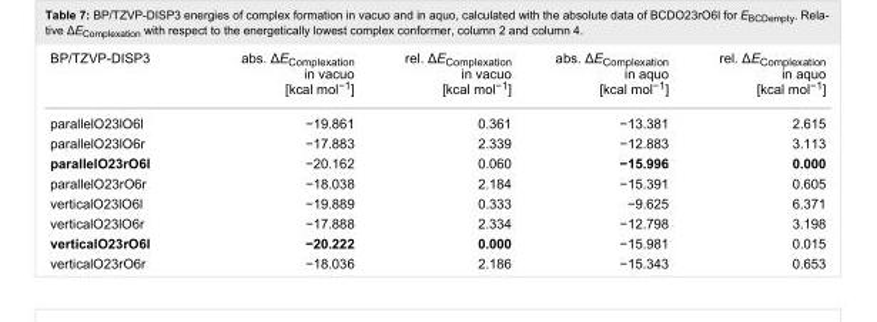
<table><tbody><tr><td>BP/TZVP-DISP3</td><td>abs. ΔE<sub>Complexation</sub> in vacuo [kcal mol<sup>−1</sup>]</td><td>rel. ΔE<sub>Complexation</sub> in vacuo [kcal mol<sup>−1</sup>]</td><td>abs. ΔE<sub>Complexation</sub> in aquo [kcal mol<sup>−1</sup>]</td><td>rel. ΔE<sub>Complexation</sub> in aquo [kcal mol<sup>−1</sup>]</td></tr><tr><td>parallelO23lO6l</td><td>−19.861</td><td>0.361</td><td>−13.381</td><td>2.615</td></tr><tr><td>parallelO23lO6r</td><td>−17.883</td><td>2.339</td><td>−12.883</td><td>3.113</td></tr><tr><td>parallelO23rO6l</td><td>−20.162</td><td>0.060</td><td>−15.996</td><td>0.000</td></tr><tr><td>parallelO23rO6r</td><td>−18.038</td><td>2.184</td><td>−15.391</td><td>0.605</td></tr><tr><td>verticalO23lO6l</td><td>−19.889</td><td>0.333</td><td>−9.625</td><td>6.371</td></tr><tr><td>verticalO23lO6r</td><td>−17.888</td><td>2.334</td><td>−12.798</td><td>3.198</td></tr><tr><td>verticalO23rO6l</td><td>−20.222</td><td>0.000</td><td>−15.981</td><td>0.015</td></tr><tr><td>verticalO23rO6r</td><td>−18.036</td><td>2.186</td><td>−15.343</td><td>0.653</td></tr></tbody></table>